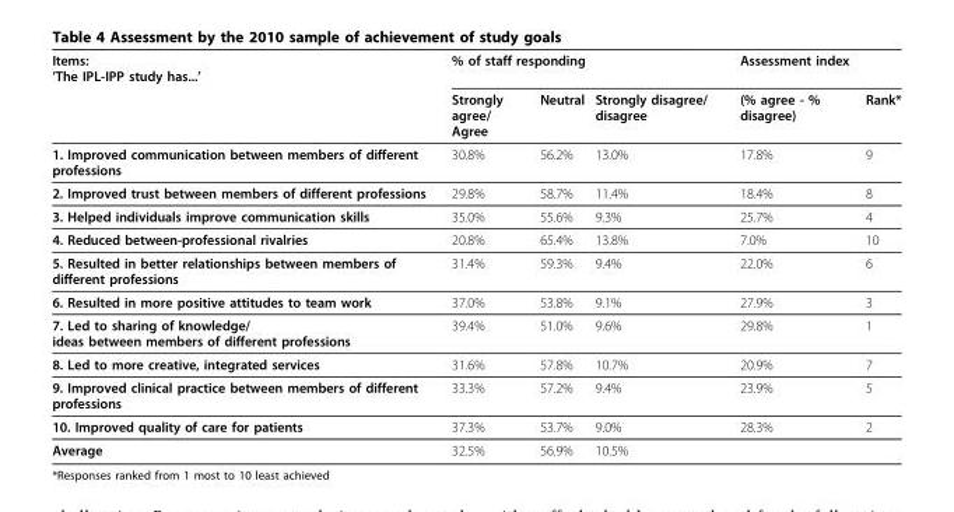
<table><thead><tr><td rowspan="2">Items: ’The IPL-IPP study has...’</td><td colspan="3">% of staff responding</td><td colspan="2">Assessment index</td></tr><tr><td>Strongly agree/ Agree</td><td>Neutral</td><td>Strongly disagree/ disagree</td><td>(% agree - % disagree)</td><td>Rank*</td></tr></thead><tbody><tr><td>1. Improved communication between members of different professions</td><td>30.8%</td><td>56.2%</td><td>13.0%</td><td>17.8%</td><td>9</td></tr><tr><td>2. Improved trust between members of different professions</td><td>29.8%</td><td>58.7%</td><td>11.4%</td><td>18.4%</td><td>8</td></tr><tr><td>3. Helped individuals improve communication skills</td><td>35.0%</td><td>55.6%</td><td>9.3%</td><td>25.7%</td><td>4</td></tr><tr><td>4. Reduced between-professional rivalries</td><td>20.8%</td><td>65.4%</td><td>13.8%</td><td>7.0%</td><td>10</td></tr><tr><td>5. Resulted in better relationships between members of different professions</td><td>31.4%</td><td>59.3%</td><td>9.4%</td><td>22.0%</td><td>6</td></tr><tr><td>6. Resulted in more positive attitudes to team work</td><td>37.0%</td><td>53.8%</td><td>9.1%</td><td>27.9%</td><td>3</td></tr><tr><td>7. Led to sharing of knowledge/ ideas between members of different professions</td><td>39.4%</td><td>51.0%</td><td>9.6%</td><td>29.8%</td><td>1</td></tr><tr><td>8. Led to more creative, integrated services</td><td>31.6%</td><td>57.8%</td><td>10.7%</td><td>20.9%</td><td>7</td></tr><tr><td>9. Improved clinical practice between members of different professions</td><td>33.3%</td><td>57.2%</td><td>9.4%</td><td>23.9%</td><td>5</td></tr><tr><td>10. Improved quality of care for patients</td><td>37.3%</td><td>53.7%</td><td>9.0%</td><td>28.3%</td><td>2</td></tr><tr><td>Average</td><td>32.5%</td><td>56.9%</td><td>10.5%</td><td></td><td></td></tr></tbody></table>